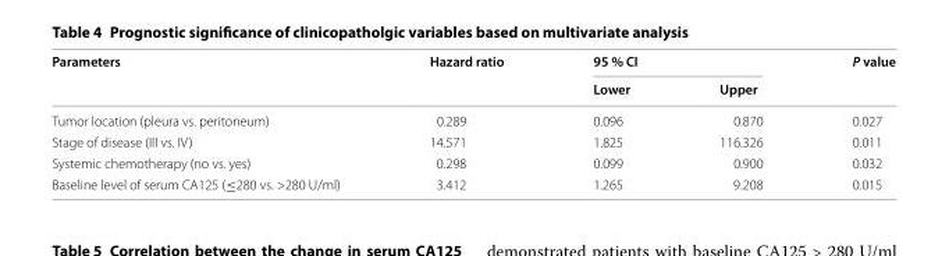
<table><thead><tr><td rowspan="2">Parameters</td><td rowspan="2">Hazard ratio</td><td colspan="2">95 % CI</td><td rowspan="2">P value</td></tr><tr><td>Lower</td><td>Upper</td></tr></thead><tbody><tr><td>Tumor location (pleura vs. peritoneum)</td><td>0.289</td><td>0.096</td><td>0.870</td><td>0.027</td></tr><tr><td>Stage of disease (III vs. IV)</td><td>14.571</td><td>1.825</td><td>116.326</td><td>0.011</td></tr><tr><td>Systemic chemotherapy (no vs. yes)</td><td>0.298</td><td>0.099</td><td>0.900</td><td>0.032</td></tr><tr><td>Baseline level of serum CA125 (≤280 vs. &gt;280 U/ml)</td><td>3.412</td><td>1.265</td><td>9.208</td><td>0.015</td></tr></tbody></table>